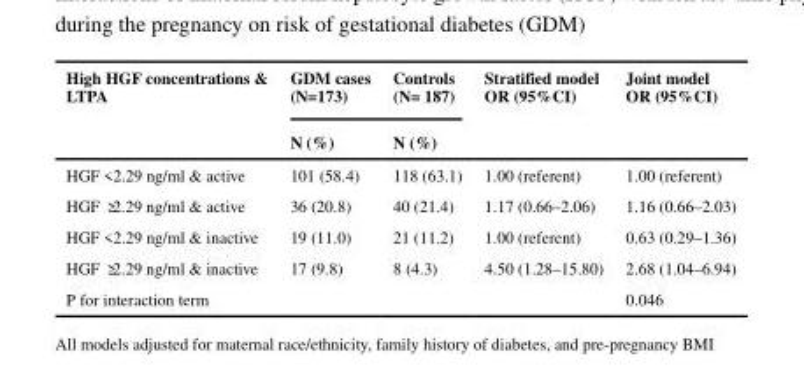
<table><thead><tr><td rowspan="2">High HGF concentrations &amp; LTPA</td><td rowspan="2">GDM cases (N=173) N (%)</td><td rowspan="2">Controls (N= 187) N (%)</td><td rowspan="2">Stratified model OR (95%CI)</td><td rowspan="2">Joint model OR (95%CI)</td></tr><tr></tr></thead><tbody><tr><td>HGF &lt;2.29 ng/ml &amp; active</td><td>101 (58.4)</td><td>118 (63.1)</td><td>1.00 (referent)</td><td>1.00 (referent)</td></tr><tr><td>HGF ≥2.29 ng/ml &amp; active</td><td>36 (20.8)</td><td>40 (21.4)</td><td>1.17 (0.66–2.06)</td><td>1.16 (0.66–2.03)</td></tr><tr><td>HGF &lt;2.29 ng/ml &amp; inactive</td><td>19 (11.0)</td><td>21 (11.2)</td><td>1.00 (referent)</td><td>0.63 (0.29–1.36)</td></tr><tr><td>HGF ≥2.29 ng/ml &amp; inactive</td><td>17 (9.8)</td><td>8 (4.3)</td><td>4.50 (1.28–15.80)</td><td>2.68 (1.04–6.94)</td></tr><tr><td>P for interaction term</td><td></td><td></td><td></td><td>0.046</td></tr></tbody></table>